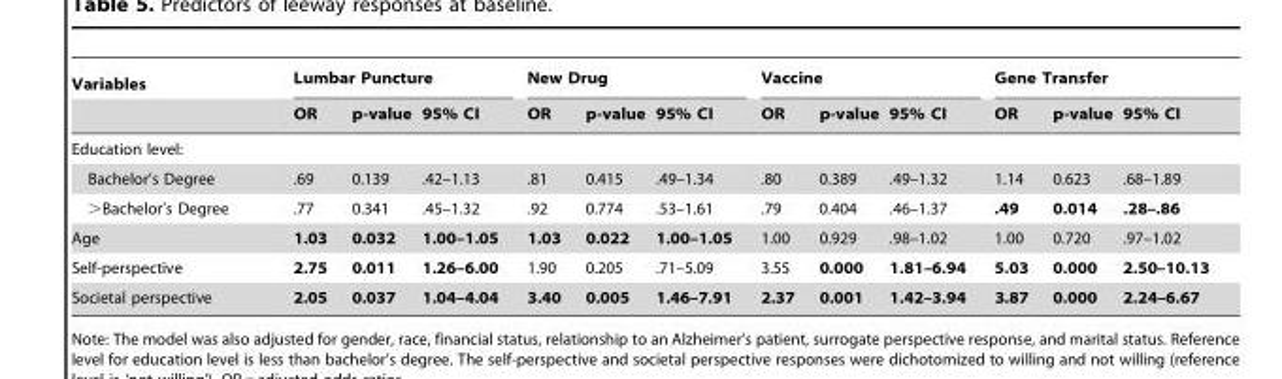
<table><thead><tr><td rowspan="2">Variables</td><td colspan="3">Lumbar Puncture</td><td colspan="3">New Drug</td><td colspan="3">Vaccine</td><td colspan="3">Gene Transfer</td></tr><tr><td>OR</td><td>p-value</td><td>95% CI</td><td>OR</td><td>p-value</td><td>95% CI</td><td>OR</td><td>p-value</td><td>95% CI</td><td>OR</td><td>p-value</td><td>95% CI</td></tr></thead><tbody><tr><td colspan="13">Education level:</td></tr><tr><td>Bachelor’s Degree</td><td>.69</td><td>0.139</td><td>.42–1.13</td><td>.81</td><td>0.415</td><td>.49–1.34</td><td>.80</td><td>0.389</td><td>.49–1.32</td><td>1.14</td><td>0.623</td><td>.68–1.89</td></tr><tr><td>&gt;Bachelor’s Degree</td><td>.77</td><td>0.341</td><td>.45–1.32</td><td>.92</td><td>0.774</td><td>.53–1.61</td><td>.79</td><td>0.404</td><td>.46–1.37</td><td>.49</td><td>0.014</td><td>.28–.86</td></tr><tr><td>Age</td><td>1.03</td><td>0.032</td><td>1.00–1.05</td><td>1.03</td><td>0.022</td><td>1.00–1.05</td><td>1.00</td><td>0.929</td><td>.98–1.02</td><td>1.00</td><td>0.720</td><td>.97–1.02</td></tr><tr><td>Self-perspective</td><td>2.75</td><td>0.011</td><td>1.26–6.00</td><td>1.90</td><td>0.205</td><td>.71–5.09</td><td>3.55</td><td>0.000</td><td>1.81–6.94</td><td>5.03</td><td>0.000</td><td>2.50–10.13</td></tr><tr><td>Societal perspective</td><td>2.05</td><td>0.037</td><td>1.04–4.04</td><td>3.40</td><td>0.005</td><td>1.46–7.91</td><td>2.37</td><td>0.001</td><td>1.42–3.94</td><td>3.87</td><td>0.000</td><td>2.24–6.67</td></tr></tbody></table>